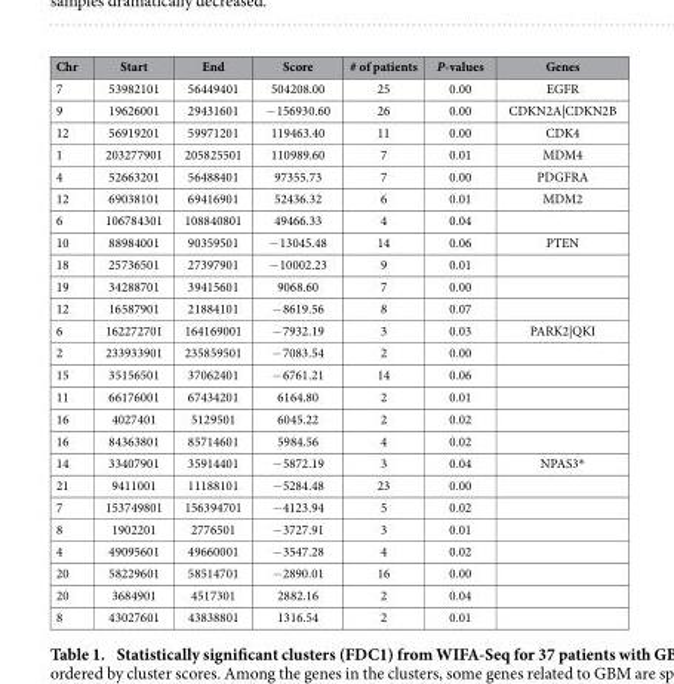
<table><thead><tr><td>Chr</td><td>Start</td><td>End</td><td>Score</td><td># of patients</td><td>P-values</td><td>Genes</td></tr></thead><tbody><tr><td>7</td><td>53982101</td><td>56449401</td><td>504208.00</td><td>25</td><td>0.00</td><td>EGFR</td></tr><tr><td>9</td><td>19626001</td><td>29431601</td><td>− 156930.60</td><td>26</td><td>0.00</td><td>CDKN2A|CDKN2B</td></tr><tr><td>12</td><td>56919201</td><td>59971201</td><td>119463.40</td><td>11</td><td>0.00</td><td>CDK4</td></tr><tr><td>1</td><td>203277901</td><td>205825501</td><td>110989.60</td><td>7</td><td>0.01</td><td>MDM4</td></tr><tr><td>4</td><td>52663201</td><td>56488401</td><td>97355.73</td><td>7</td><td>0.00</td><td>PDGFRA</td></tr><tr><td>12</td><td>69038101</td><td>69416901</td><td>52436.32</td><td>6</td><td>0.01</td><td>MDM2</td></tr><tr><td>6</td><td>106784301</td><td>108840801</td><td>49466.33</td><td>4</td><td>0.04</td><td></td></tr><tr><td>10</td><td>88984001</td><td>90359501</td><td>− 13045.48</td><td>14</td><td>0.06</td><td>PTEN</td></tr><tr><td>18</td><td>25736501</td><td>27397901</td><td>− 10002.23</td><td>9</td><td>0.01</td><td></td></tr><tr><td>19</td><td>34288701</td><td>39415601</td><td>9068.60</td><td>7</td><td>0.00</td><td></td></tr><tr><td>12</td><td>16587901</td><td>21884101</td><td>− 8619.56</td><td>8</td><td>0.07</td><td></td></tr><tr><td>6</td><td>162272701</td><td>164169001</td><td>− 7932.19</td><td>3</td><td>0.03</td><td>PARK2|QKI</td></tr><tr><td>2</td><td>233933901</td><td>235859501</td><td>− 7083.54</td><td>2</td><td>0.00</td><td></td></tr><tr><td>15</td><td>35156501</td><td>37062401</td><td>− 6761.21</td><td>14</td><td>0.06</td><td></td></tr><tr><td>11</td><td>66176001</td><td>67434201</td><td>6164.80</td><td>2</td><td>0.01</td><td></td></tr><tr><td>16</td><td>4027401</td><td>5129501</td><td>6045.22</td><td>2</td><td>0.02</td><td></td></tr><tr><td>16</td><td>84363801</td><td>85714601</td><td>5984.56</td><td>4</td><td>0.02</td><td></td></tr><tr><td>14</td><td>33407901</td><td>35914401</td><td>− 5872.19</td><td>3</td><td>0.04</td><td>NPAS3*</td></tr><tr><td>21</td><td>9411001</td><td>11188101</td><td>− 5284.48</td><td>23</td><td>0.00</td><td></td></tr><tr><td>7</td><td>153749801</td><td>156394701</td><td>− 4123.94</td><td>5</td><td>0.02</td><td></td></tr><tr><td>8</td><td>1902201</td><td>2776501</td><td>− 3727.91</td><td>3</td><td>0.01</td><td></td></tr><tr><td>4</td><td>49095601</td><td>49660001</td><td>− 3547.28</td><td>4</td><td>0.02</td><td></td></tr><tr><td>20</td><td>58229601</td><td>58514701</td><td>− 2890.01</td><td>16</td><td>0.00</td><td></td></tr><tr><td>20</td><td>3684901</td><td>4517301</td><td>2882.16</td><td>2</td><td>0.04</td><td></td></tr><tr><td>8</td><td>43027601</td><td>43838801</td><td>1316.54</td><td>2</td><td>0.01</td><td></td></tr></tbody></table>